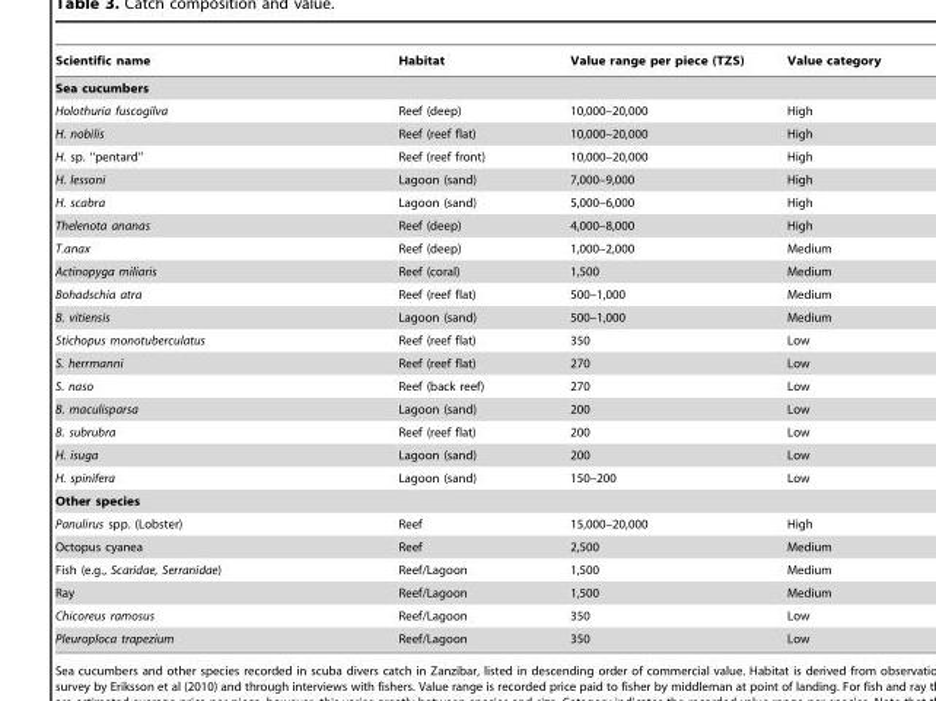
<table><thead><tr><td>Scientific name</td><td>Habitat</td><td>Value range per piece (TZS)</td><td>Value category</td></tr></thead><tbody><tr><td colspan="4">Sea cucumbers</td></tr><tr><td>Holothuria fuscogilva</td><td>Reef (deep)</td><td>10,000–20,000</td><td>High</td></tr><tr><td>H. nobilis</td><td>Reef (reef flat)</td><td>10,000–20,000</td><td>High</td></tr><tr><td>H. sp. ‘‘pentard’’</td><td>Reef (reef front)</td><td>10,000–20,000</td><td>High</td></tr><tr><td>H. lessoni</td><td>Lagoon (sand)</td><td>7,000–9,000</td><td>High</td></tr><tr><td>H. scabra</td><td>Lagoon (sand)</td><td>5,000–6,000</td><td>High</td></tr><tr><td>Thelenota ananas</td><td>Reef (deep)</td><td>4,000–8,000</td><td>High</td></tr><tr><td>T.anax</td><td>Reef (deep)</td><td>1,000–2,000</td><td>Medium</td></tr><tr><td>Actinopyga miliaris</td><td>Reef (coral)</td><td>1,500</td><td>Medium</td></tr><tr><td>Bohadschia atra</td><td>Reef (reef flat)</td><td>500–1,000</td><td>Medium</td></tr><tr><td>B. vitiensis</td><td>Lagoon (sand)</td><td>500–1,000</td><td>Medium</td></tr><tr><td>Stichopus monotuberculatus</td><td>Reef (reef flat)</td><td>350</td><td>Low</td></tr><tr><td>S. herrmanni</td><td>Reef (reef flat)</td><td>270</td><td>Low</td></tr><tr><td>S. naso</td><td>Reef (back reef)</td><td>270</td><td>Low</td></tr><tr><td>B. maculisparsa</td><td>Lagoon (sand)</td><td>200</td><td>Low</td></tr><tr><td>B. subrubra</td><td>Reef (reef flat)</td><td>200</td><td>Low</td></tr><tr><td>H. isuga</td><td>Lagoon (sand)</td><td>200</td><td>Low</td></tr><tr><td>H. spinifera</td><td>Lagoon (sand)</td><td>150–200</td><td>Low</td></tr><tr><td colspan="4">Other species</td></tr><tr><td>Panulirus spp. (Lobster)</td><td>Reef</td><td>15,000–20,000</td><td>High</td></tr><tr><td>Octopus cyanea</td><td>Reef</td><td>2,500</td><td>Medium</td></tr><tr><td>Fish (e.g., Scaridae, Serranidae)</td><td>Reef/Lagoon</td><td>1,500</td><td>Medium</td></tr><tr><td>Ray</td><td>Reef/Lagoon</td><td>1,500</td><td>Medium</td></tr><tr><td>Chicoreus ramosus</td><td>Reef/Lagoon</td><td>350</td><td>Low</td></tr><tr><td>Pleuroploca trapezium</td><td>Reef/Lagoon</td><td>350</td><td>Low</td></tr></tbody></table>